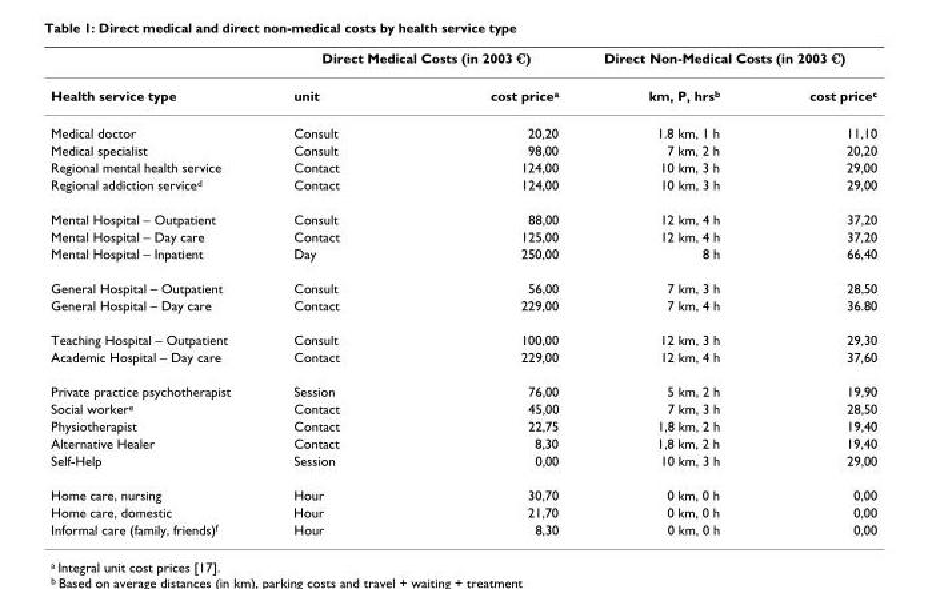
<table><thead><tr><td rowspan="2">Health service type</td><td colspan="2">Direct Medical Costs (in 2003 €)</td><td colspan="2">Direct Non-Medical Costs (in 2003 €)</td></tr><tr><td>unit</td><td>cost price<sup>a</sup></td><td>km, P, hrs<sup>b</sup></td><td>cost price<sup>c</sup></td></tr></thead><tbody><tr><td>Medical doctor</td><td>Consult</td><td>20,20</td><td>1.8 km, 1 h</td><td>11,10</td></tr><tr><td>Medical specialist</td><td>Consult</td><td>98,00</td><td>7 km, 2 h</td><td>20,20</td></tr><tr><td>Regional mental health service</td><td>Contact</td><td>124,00</td><td>10 km, 3 h</td><td>29,00</td></tr><tr><td>Regional addiction service<sup>d</sup></td><td>Contact</td><td>124,00</td><td>10 km, 3 h</td><td>29,00</td></tr><tr><td>Mental Hospital – Outpatient</td><td>Consult</td><td>88,00</td><td>12 km, 4 h</td><td>37,20</td></tr><tr><td>Mental Hospital – Day care</td><td>Contact</td><td>125,00</td><td>12 km, 4 h</td><td>37,20</td></tr><tr><td>Mental Hospital – Inpatient</td><td>Day</td><td>250,00</td><td>8 h</td><td>66,40</td></tr><tr><td>General Hospital – Outpatient</td><td>Consult</td><td>56,00</td><td>7 km, 3 h</td><td>28,50</td></tr><tr><td>General Hospital – Day care</td><td>Contact</td><td>229,00</td><td>7 km, 4 h</td><td>36.80</td></tr><tr><td>Teaching Hospital – Outpatient</td><td>Consult</td><td>100,00</td><td>12 km, 3 h</td><td>29,30</td></tr><tr><td>Academic Hospital – Day care</td><td>Contact</td><td>229,00</td><td>12 km, 4 h</td><td>37,60</td></tr><tr><td>Private practice psychotherapist</td><td>Session</td><td>76,00</td><td>5 km, 2 h</td><td>19,90</td></tr><tr><td>Social worker<sup>e</sup></td><td>Contact</td><td>45,00</td><td>7 km, 3 h</td><td>28,50</td></tr><tr><td>Physiotherapist</td><td>Contact</td><td>22,75</td><td>1,8 km, 2 h</td><td>19,40</td></tr><tr><td>Alternative Healer</td><td>Contact</td><td>8,30</td><td>1,8 km, 2 h</td><td>19,40</td></tr><tr><td>Self-Help</td><td>Session</td><td>0,00</td><td>10 km, 3 h</td><td>29,00</td></tr><tr><td>Home care, nursing</td><td>Hour</td><td>30,70</td><td>0 km, 0 h</td><td>0,00</td></tr><tr><td>Home care, domestic</td><td>Hour</td><td>21,70</td><td>0 km, 0 h</td><td>0,00</td></tr><tr><td>Informal care (family, friends)<sup>f</sup></td><td>Hour</td><td>8,30</td><td>0 km, 0 h</td><td>0,00</td></tr></tbody></table>